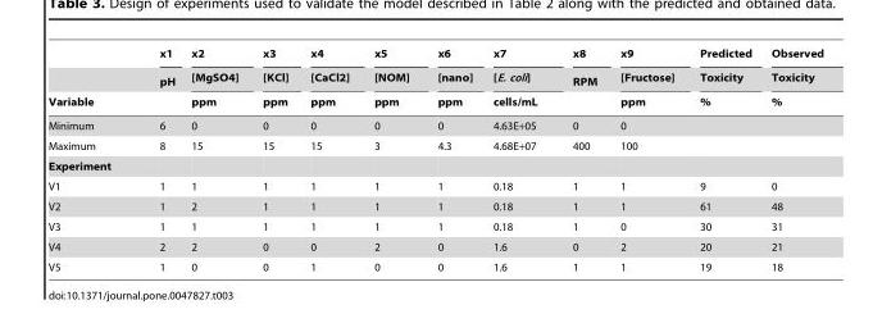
<table><thead><tr><td rowspan="3">Variable</td><td rowspan="3">x1 pH</td><td rowspan="3">x2 [MgSO4] ppm</td><td rowspan="3">x3 [KCl] ppm</td><td rowspan="3">x4 [CaCl2] ppm</td><td rowspan="3">x5 [NOM] ppm</td><td rowspan="3">x6 [nano] ppm</td><td rowspan="3">x7 [E. coli] cells/mL</td><td rowspan="3">x8 RPM</td><td rowspan="3">x9 [Fructose] ppm</td><td rowspan="3">Predicted Toxicity %</td><td rowspan="3">Observed Toxicity %</td></tr><tr></tr><tr></tr></thead><tbody><tr><td>Minimum</td><td>6</td><td>0</td><td>0</td><td>0</td><td>0</td><td>0</td><td>4.63E+05</td><td>0</td><td>0</td><td></td><td></td></tr><tr><td>Maximum</td><td>8</td><td>15</td><td>15</td><td>15</td><td>3</td><td>4.3</td><td>4.68E+07</td><td>400</td><td>100</td><td></td><td></td></tr><tr><td colspan="12">Experiment</td></tr><tr><td>V1</td><td>1</td><td>1</td><td>1</td><td>1</td><td>1</td><td>1</td><td>0.18</td><td>1</td><td>1</td><td>9</td><td>0</td></tr><tr><td>V2</td><td>1</td><td>2</td><td>1</td><td>1</td><td>1</td><td>1</td><td>0.18</td><td>1</td><td>1</td><td>61</td><td>48</td></tr><tr><td>V3</td><td>1</td><td>1</td><td>1</td><td>1</td><td>1</td><td>1</td><td>0.18</td><td>1</td><td>0</td><td>30</td><td>31</td></tr><tr><td>V4</td><td>2</td><td>2</td><td>0</td><td>0</td><td>2</td><td>0</td><td>1.6</td><td>0</td><td>2</td><td>20</td><td>21</td></tr><tr><td>V5</td><td>1</td><td>0</td><td>0</td><td>1</td><td>0</td><td>0</td><td>1.6</td><td>1</td><td>1</td><td>19</td><td>18</td></tr></tbody></table>